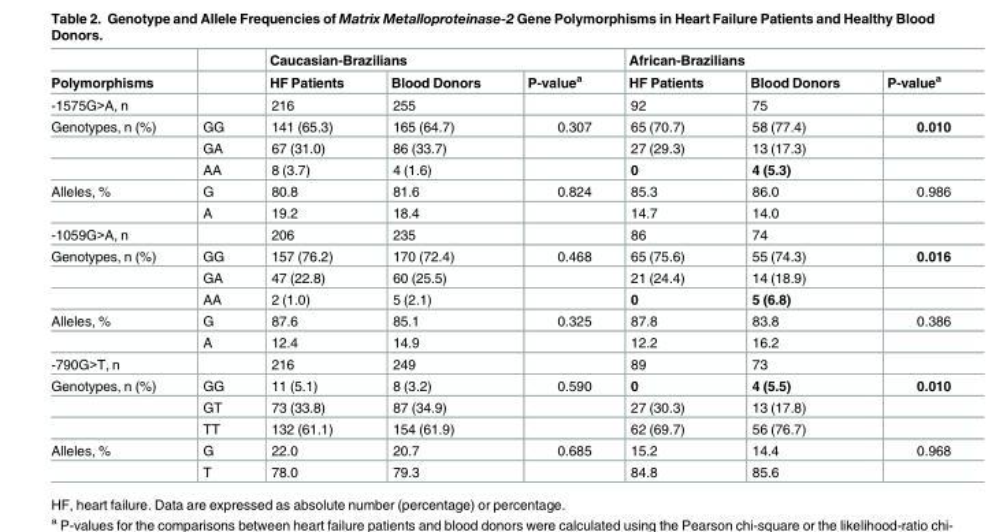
<table><thead><tr><td rowspan="2">Polymorphisms</td><td rowspan="2"></td><td colspan="3">Caucasian-Brazilians</td><td colspan="3">African-Brazilians</td></tr><tr><td>HF Patients</td><td>Blood Donors</td><td>P-value<sup>a</sup></td><td>HF Patients</td><td>Blood Donors</td><td>P-value<sup>a</sup></td></tr></thead><tbody><tr><td>-1575G&gt;A, n</td><td></td><td>216</td><td>255</td><td></td><td>92</td><td>75</td><td></td></tr><tr><td rowspan="3">Genotypes, n (%)</td><td>GG</td><td>141 (65.3)</td><td>165 (64.7)</td><td>0.307</td><td>65 (70.7)</td><td>58 (77.4)</td><td>0.010</td></tr><tr><td>GA</td><td>67 (31.0)</td><td>86 (33.7)</td><td></td><td>27 (29.3)</td><td>13 (17.3)</td><td></td></tr><tr><td>AA</td><td>8 (3.7)</td><td>4 (1.6)</td><td></td><td>0</td><td>4 (5.3)</td><td></td></tr><tr><td rowspan="2">Alleles, %</td><td>G</td><td>80.8</td><td>81.6</td><td>0.824</td><td>85.3</td><td>86.0</td><td>0.986</td></tr><tr><td>A</td><td>19.2</td><td>18.4</td><td></td><td>14.7</td><td>14.0</td><td></td></tr><tr><td>-1059G&gt;A, n</td><td></td><td>206</td><td>235</td><td></td><td>86</td><td>74</td><td></td></tr><tr><td rowspan="3">Genotypes, n (%)</td><td>GG</td><td>157 (76.2)</td><td>170 (72.4)</td><td>0.468</td><td>65 (75.6)</td><td>55 (74.3)</td><td>0.016</td></tr><tr><td>GA</td><td>47 (22.8)</td><td>60 (25.5)</td><td></td><td>21 (24.4)</td><td>14 (18.9)</td><td></td></tr><tr><td>AA</td><td>2 (1.0)</td><td>5 (2.1)</td><td></td><td>0</td><td>5 (6.8)</td><td></td></tr><tr><td rowspan="2">Alleles, %</td><td>G</td><td>87.6</td><td>85.1</td><td>0.325</td><td>87.8</td><td>83.8</td><td>0.386</td></tr><tr><td>A</td><td>12.4</td><td>14.9</td><td></td><td>12.2</td><td>16.2</td><td></td></tr><tr><td>-790G&gt;T, n</td><td></td><td>216</td><td>249</td><td></td><td>89</td><td>73</td><td></td></tr><tr><td rowspan="3">Genotypes, n (%)</td><td>GG</td><td>11 (5.1)</td><td>8 (3.2)</td><td>0.590</td><td>0</td><td>4 (5.5)</td><td>0.010</td></tr><tr><td>GT</td><td>73 (33.8)</td><td>87 (34.9)</td><td></td><td>27 (30.3)</td><td>13 (17.8)</td><td></td></tr><tr><td>TT</td><td>132 (61.1)</td><td>154 (61.9)</td><td></td><td>62 (69.7)</td><td>56 (76.7)</td><td></td></tr><tr><td rowspan="2">Alleles, %</td><td>G</td><td>22.0</td><td>20.7</td><td>0.685</td><td>15.2</td><td>14.4</td><td>0.968</td></tr><tr><td>T</td><td>78.0</td><td>79.3</td><td></td><td>84.8</td><td>85.6</td><td></td></tr></tbody></table>